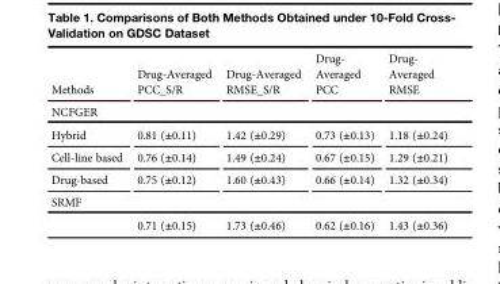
<table><thead><tr><td>Methods</td><td>Drug-Averaged PCC_S/R</td><td>Drug-Averaged RMSE_S/R</td><td>Drug- Averaged PCC</td><td>Drug- Averaged RMSE</td></tr></thead><tbody><tr><td colspan="5">NCFGER</td></tr><tr><td>Hybrid</td><td>0.81 (±0.11)</td><td>1.42 (±0.29)</td><td>0.73 (±0.13)</td><td>1.18 (±0.24)</td></tr><tr><td>Cell-line based</td><td>0.76 (±0.14)</td><td>1.49 (±0.24)</td><td>0.67 (±0.15)</td><td>1.29 (±0.21)</td></tr><tr><td>Drug-based</td><td>0.75 (±0.12)</td><td>1.60 (±0.43)</td><td>0.66 (±0.14)</td><td>1.32 (±0.34)</td></tr><tr><td colspan="5">SRMF</td></tr><tr><td></td><td>0.71 (±0.15)</td><td>1.73 (±0.46)</td><td>0.62 (±0.16)</td><td>1.43 (±0.36)</td></tr></tbody></table>